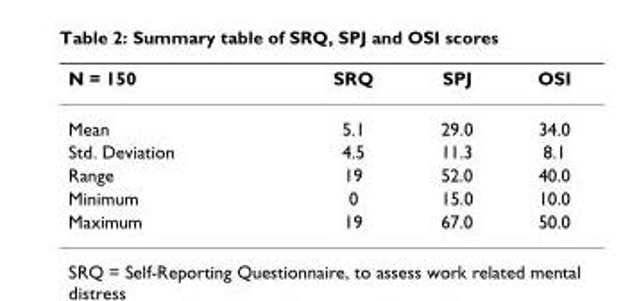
<table><thead><tr><td>N = 150</td><td>SRQ</td><td>SPJ</td><td>OSI</td></tr></thead><tbody><tr><td>Mean</td><td>5.1</td><td>29.0</td><td>34.0</td></tr><tr><td>Std. Deviation</td><td>4.5</td><td>11.3</td><td>8.1</td></tr><tr><td>Range</td><td>19</td><td>52.0</td><td>40.0</td></tr><tr><td>Minimum</td><td>0</td><td>15.0</td><td>10.0</td></tr><tr><td>Maximum</td><td>19</td><td>67.0</td><td>50.0</td></tr></tbody></table>